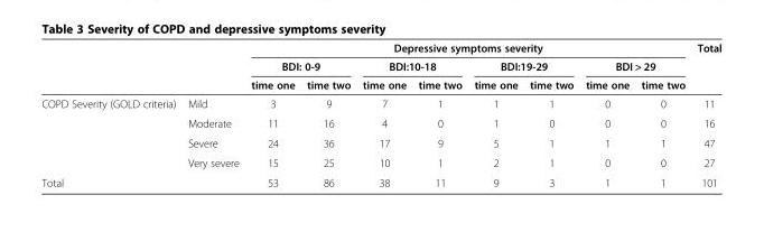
<table><thead><tr><td rowspan="3"></td><td rowspan="3"></td><td colspan="8">Depressive symptoms severity</td><td rowspan="3">Total</td></tr><tr><td colspan="2">BDI: 0-9</td><td colspan="2">BDI:10-18</td><td colspan="2">BDI:19-29</td><td colspan="2">BDI &gt; 29</td></tr><tr><td>time one</td><td>time two</td><td>time one</td><td>time two</td><td>time one</td><td>time two</td><td>time one</td><td>time two</td></tr></thead><tbody><tr><td rowspan="4">COPD Severity (GOLD criteria)</td><td>Mild</td><td>3</td><td>9</td><td>7</td><td>1</td><td>1</td><td>1</td><td>0</td><td>0</td><td>11</td></tr><tr><td>Moderate</td><td>11</td><td>16</td><td>4</td><td>0</td><td>1</td><td>0</td><td>0</td><td>0</td><td>16</td></tr><tr><td>Severe</td><td>24</td><td>36</td><td>17</td><td>9</td><td>5</td><td>1</td><td>1</td><td>1</td><td>47</td></tr><tr><td>Very severe</td><td>15</td><td>25</td><td>10</td><td>1</td><td>2</td><td>1</td><td>0</td><td>0</td><td>27</td></tr><tr><td colspan="2">Total</td><td>53</td><td>86</td><td>38</td><td>11</td><td>9</td><td>3</td><td>1</td><td>1</td><td>101</td></tr></tbody></table>